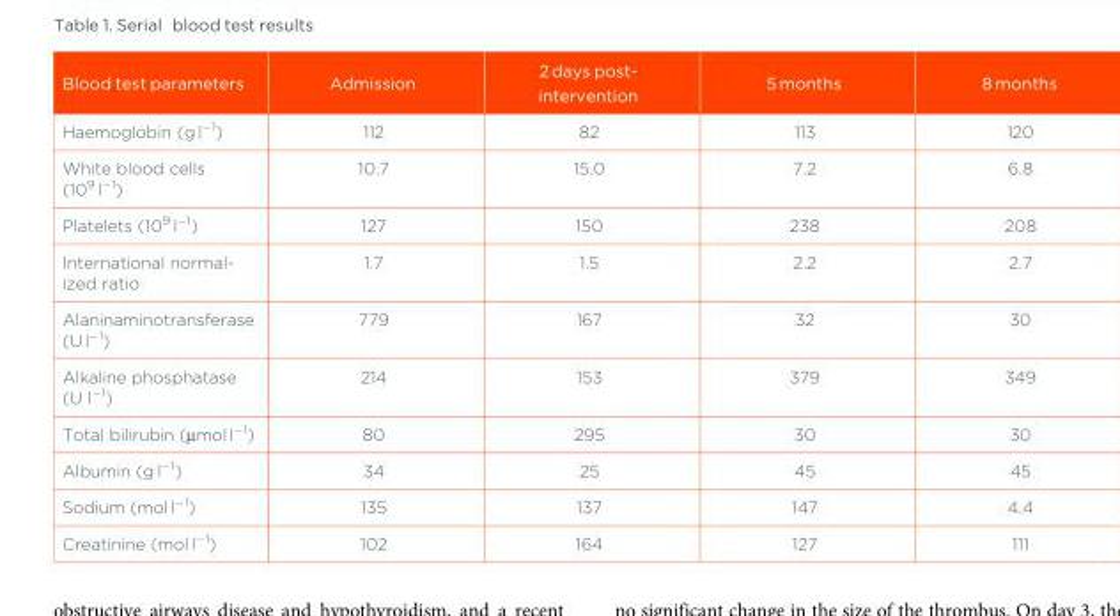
<table><thead><tr><td>Blood test parameters</td><td>Admission</td><td>2 days post- intervention</td><td>5 months</td><td>8 months</td></tr></thead><tbody><tr><td>Haemoglobin (g l<sup>−1</sup>)</td><td>112</td><td>82</td><td>113</td><td>120</td></tr><tr><td>White blood cells (10<sup>9</sup> l<sup>−1</sup>)</td><td>10.7</td><td>15.0</td><td>7.2</td><td>6.8</td></tr><tr><td>Platelets (10<sup>9</sup> l<sup>−1</sup>)</td><td>127</td><td>150</td><td>238</td><td>208</td></tr><tr><td>International normal- ized ratio</td><td>1.7</td><td>1.5</td><td>2.2</td><td>2.7</td></tr><tr><td>Alaninaminotransferase (U l<sup>−1</sup>)</td><td>779</td><td>167</td><td>32</td><td>30</td></tr><tr><td>Alkaline phosphatase (U l<sup>−1</sup>)</td><td>214</td><td>153</td><td>379</td><td>349</td></tr><tr><td>Total bilirubin (μmol l<sup>−1</sup>)</td><td>80</td><td>295</td><td>30</td><td>30</td></tr><tr><td>Albumin (g l<sup>−1</sup>)</td><td>34</td><td>25</td><td>45</td><td>45</td></tr><tr><td>Sodium (mol l<sup>−1</sup>)</td><td>135</td><td>137</td><td>147</td><td>4.4</td></tr><tr><td>Creatinine (mol l<sup>−1</sup>)</td><td>102</td><td>164</td><td>127</td><td>111</td></tr></tbody></table>